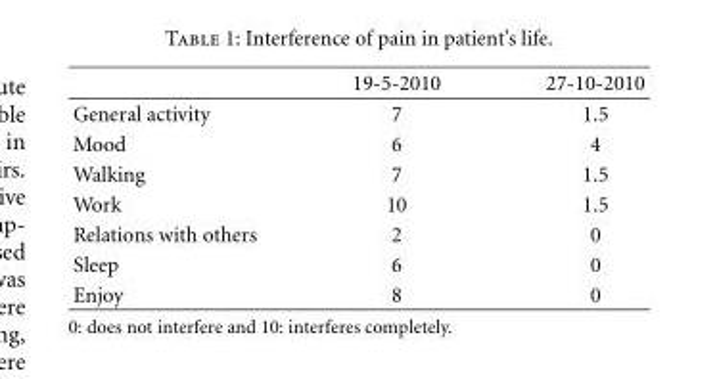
<table><thead><tr><td></td><td>19-5-2010</td><td>27-10-2010</td></tr></thead><tbody><tr><td>General activity</td><td>7</td><td>1.5</td></tr><tr><td>Mood</td><td>6</td><td>4</td></tr><tr><td>Walking</td><td>7</td><td>1.5</td></tr><tr><td>Work</td><td>10</td><td>1.5</td></tr><tr><td>Relations with others</td><td>2</td><td>0</td></tr><tr><td>Sleep</td><td>6</td><td>0</td></tr><tr><td>Enjoy</td><td>8</td><td>0</td></tr></tbody></table>